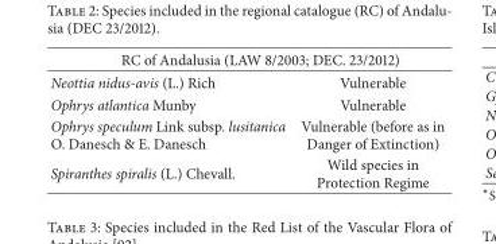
<table><thead><tr><td colspan="2">RC of Andalusia (LAW 8/2003; DEC. 23/2012)</td></tr><tr><td>Neottia nidus-avis (L.) Rich</td><td>Vulnerable</td></tr></thead><tbody><tr><td>Ophrys atlantica Munby</td><td>Vulnerable</td></tr><tr><td>Ophrys speculum Link subsp. lusitanica O. Danesch &amp; E. Danesch</td><td>Vulnerable (before as in Danger of Extinction)</td></tr><tr><td>Spiranthes spiralis (L.) Chevall.</td><td>Wild species in Protection Regime</td></tr></tbody></table>